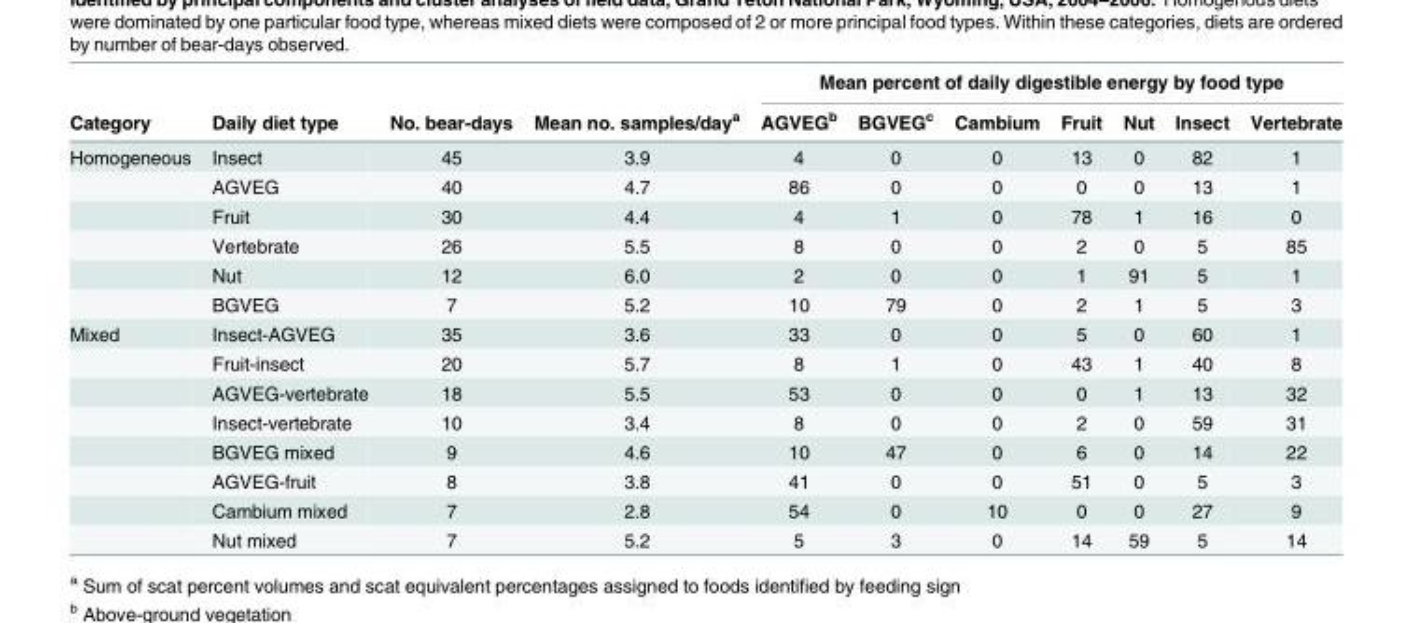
<table><thead><tr><td rowspan="2">Category</td><td rowspan="2">Daily diet type</td><td rowspan="2">No. bear-days</td><td rowspan="2">Mean no. samples/day<sup>a</sup></td><td colspan="7">Mean percent of daily digestible energy by food type</td></tr><tr><td>AGVEG<sup>b</sup></td><td>BGVEG<sup>c</sup></td><td>Cambium</td><td>Fruit</td><td>Nut</td><td>Insect</td><td>Vertebrate</td></tr></thead><tbody><tr><td rowspan="6">Homogeneous</td><td>Insect</td><td>45</td><td>3.9</td><td>4</td><td>0</td><td>0</td><td>13</td><td>0</td><td>82</td><td>1</td></tr><tr><td>AGVEG</td><td>40</td><td>4.7</td><td>86</td><td>0</td><td>0</td><td>0</td><td>0</td><td>13</td><td>1</td></tr><tr><td>Fruit</td><td>30</td><td>4.4</td><td>4</td><td>1</td><td>0</td><td>78</td><td>1</td><td>16</td><td>0</td></tr><tr><td>Vertebrate</td><td>26</td><td>5.5</td><td>8</td><td>0</td><td>0</td><td>2</td><td>0</td><td>5</td><td>85</td></tr><tr><td>Nut</td><td>12</td><td>6.0</td><td>2</td><td>0</td><td>0</td><td>1</td><td>91</td><td>5</td><td>1</td></tr><tr><td>BGVEG</td><td>7</td><td>5.2</td><td>10</td><td>79</td><td>0</td><td>2</td><td>1</td><td>5</td><td>3</td></tr><tr><td rowspan="8">Mixed</td><td>Insect-AGVEG</td><td>35</td><td>3.6</td><td>33</td><td>0</td><td>0</td><td>5</td><td>0</td><td>60</td><td>1</td></tr><tr><td>Fruit-insect</td><td>20</td><td>5.7</td><td>8</td><td>1</td><td>0</td><td>43</td><td>1</td><td>40</td><td>8</td></tr><tr><td>AGVEG-vertebrate</td><td>18</td><td>5.5</td><td>53</td><td>0</td><td>0</td><td>0</td><td>1</td><td>13</td><td>32</td></tr><tr><td>Insect-vertebrate</td><td>10</td><td>3.4</td><td>8</td><td>0</td><td>0</td><td>2</td><td>0</td><td>59</td><td>31</td></tr><tr><td>BGVEG mixed</td><td>9</td><td>4.6</td><td>10</td><td>47</td><td>0</td><td>6</td><td>0</td><td>14</td><td>22</td></tr><tr><td>AGVEG-fruit</td><td>8</td><td>3.8</td><td>41</td><td>0</td><td>0</td><td>51</td><td>0</td><td>5</td><td>3</td></tr><tr><td>Cambium mixed</td><td>7</td><td>2.8</td><td>54</td><td>0</td><td>10</td><td>0</td><td>0</td><td>27</td><td>9</td></tr><tr><td>Nut mixed</td><td>7</td><td>5.2</td><td>5</td><td>3</td><td>0</td><td>14</td><td>59</td><td>5</td><td>14</td></tr></tbody></table>